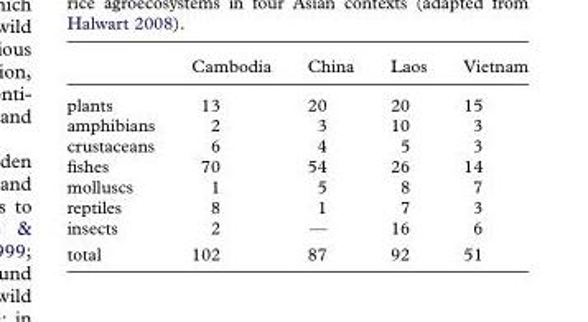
<table><thead><tr><td></td><td>Cambodia</td><td>China</td><td>Laos</td><td>Vietnam</td></tr></thead><tbody><tr><td>plants</td><td>13</td><td>20</td><td>20</td><td>15</td></tr><tr><td>amphibians</td><td>2</td><td>3</td><td>10</td><td>3</td></tr><tr><td>crustaceans</td><td>6</td><td>4</td><td>5</td><td>3</td></tr><tr><td>fishes</td><td>70</td><td>54</td><td>26</td><td>14</td></tr><tr><td>molluscs</td><td>1</td><td>5</td><td>8</td><td>7</td></tr><tr><td>reptiles</td><td>8</td><td>1</td><td>7</td><td>3</td></tr><tr><td>insects</td><td>2</td><td>—</td><td>16</td><td>6</td></tr><tr><td>total</td><td>102</td><td>87</td><td>92</td><td>51</td></tr></tbody></table>